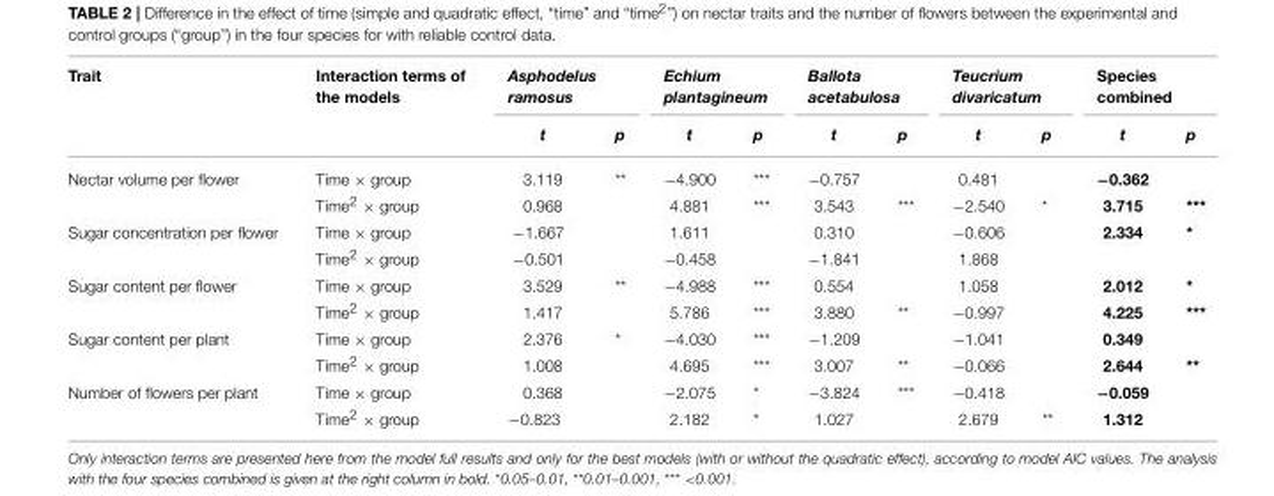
<table><thead><tr><td rowspan="2">Trait</td><td rowspan="2">Interaction terms of the models</td><td colspan="2">Asphodelus ramosus</td><td colspan="2">Echium plantagineum</td><td colspan="2">Ballota acetabulosa</td><td colspan="2">Teucrium divaricatum</td><td colspan="2">Species combined</td></tr><tr><td>t</td><td>p</td><td>t</td><td>p</td><td>t</td><td>p</td><td>t</td><td>p</td><td>t</td><td>p</td></tr></thead><tbody><tr><td rowspan="2">Nectar volume per flower</td><td>Time × group</td><td>3.119</td><td>**</td><td>−4.900</td><td>***</td><td>−0.757</td><td></td><td>0.481</td><td></td><td>−0.362</td><td></td></tr><tr><td>Time<sup>2</sup> × group</td><td>0.968</td><td></td><td>4.881</td><td>***</td><td>3.543</td><td>***</td><td>−2.540</td><td>*</td><td>3.715</td><td>***</td></tr><tr><td rowspan="2">Sugar concentration per flower</td><td>Time × group</td><td>−1.667</td><td></td><td>1.611</td><td></td><td>0.310</td><td></td><td>−0.606</td><td></td><td>2.334</td><td>*</td></tr><tr><td>Time<sup>2</sup> × group</td><td>−0.501</td><td></td><td>−0.458</td><td></td><td>−1.841</td><td></td><td>1.868</td><td></td><td></td><td></td></tr><tr><td rowspan="2">Sugar content per flower</td><td>Time × group</td><td>3.529</td><td>**</td><td>−4.988</td><td>***</td><td>0.554</td><td></td><td>1.058</td><td></td><td>2.012</td><td>*</td></tr><tr><td>Time<sup>2</sup> × group</td><td>1.417</td><td></td><td>5.786</td><td>***</td><td>3.880</td><td>**</td><td>−0.997</td><td></td><td>4.225</td><td>***</td></tr><tr><td rowspan="2">Sugar content per plant</td><td>Time × group</td><td>2.376</td><td>*</td><td>−4.030</td><td>***</td><td>−1.209</td><td></td><td>−1.041</td><td></td><td>0.349</td><td></td></tr><tr><td>Time<sup>2</sup> × group</td><td>1.008</td><td></td><td>4.695</td><td>***</td><td>3.007</td><td>**</td><td>−0.066</td><td></td><td>2.644</td><td>**</td></tr><tr><td rowspan="2">Number of flowers per plant</td><td>Time × group</td><td>0.368</td><td></td><td>−2.075</td><td>*</td><td>−3.824</td><td>***</td><td>−0.418</td><td></td><td>−0.059</td><td></td></tr><tr><td>Time<sup>2</sup> × group</td><td>−0.823</td><td></td><td>2.182</td><td>*</td><td>1.027</td><td></td><td>2.679</td><td>**</td><td>1.312</td><td></td></tr></tbody></table>